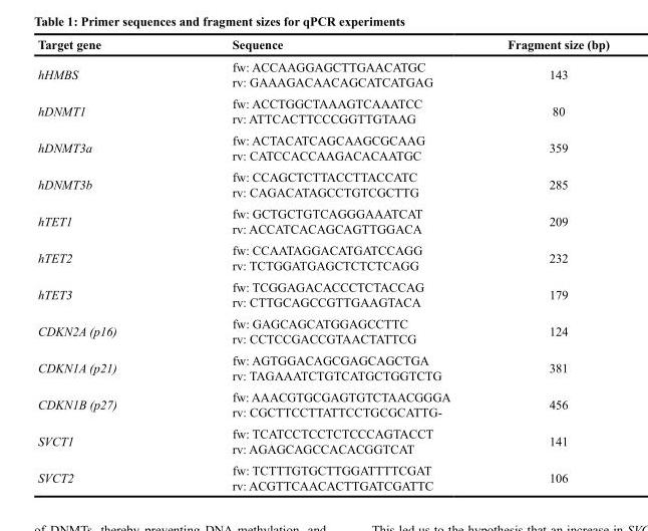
<table><thead><tr><td>Target gene</td><td>Sequence</td><td>Fragment size (bp)</td></tr></thead><tbody><tr><td>hHMBS</td><td>fw: ACCAAGGAGCTTGAACATGC rv: GAAAGACAACAGCATCATGAG</td><td>143</td></tr><tr><td>hDNMT1</td><td>fw: ACCTGGCTAAAGTCAAATCC rv: ATTCACTTCCCGGTTGTAAG</td><td>80</td></tr><tr><td>hDNMT3a</td><td>fw: ACTACATCAGCAAGCGCAAG rv: CATCCACCAAGACACAATGC</td><td>359</td></tr><tr><td>hDNMT3b</td><td>fw: CCAGCTCTTACCTTACCATC rv: CAGACATAGCCTGTCGCTTG</td><td>285</td></tr><tr><td>hTET1</td><td>fw: GCTGCTGTCAGGGAAATCAT rv: ACCATCACAGCAGTTGGACA</td><td>209</td></tr><tr><td>hTET2</td><td>fw: CCAATAGGACATGATCCAGG rv: TCTGGATGAGCTCTCTCAGG</td><td>232</td></tr><tr><td>hTET3</td><td>fw: TCGGAGACACCCTCTACCAG rv: CTTGCAGCCGTTGAAGTACA</td><td>179</td></tr><tr><td>CDKN2A (p16)</td><td>fw: GAGCAGCATGGAGCCTTC rv: CCTCCGACCGTAACTATTCG</td><td>124</td></tr><tr><td>CDKN1A (p21)</td><td>fw: AGTGGACAGCGAGCAGCTGA rv: TAGAAATCTGTCATGCTGGTCTG</td><td>381</td></tr><tr><td>CDKN1B (p27)</td><td>fw: AAACGTGCGAGTGTCTAACGGGA rv: CGCTTCCTTATTCCTGCGCATTG-</td><td>456</td></tr><tr><td>SVCT1</td><td>fw: TCATCCTCCTCTCCCAGTACCT rv: AGAGCAGCCACACGGTCAT</td><td>141</td></tr><tr><td>SVCT2</td><td>fw: TCTTTGTGCTTGGATTTTCGAT rv: ACGTTCAACACTTGATCGATTC</td><td>106</td></tr></tbody></table>